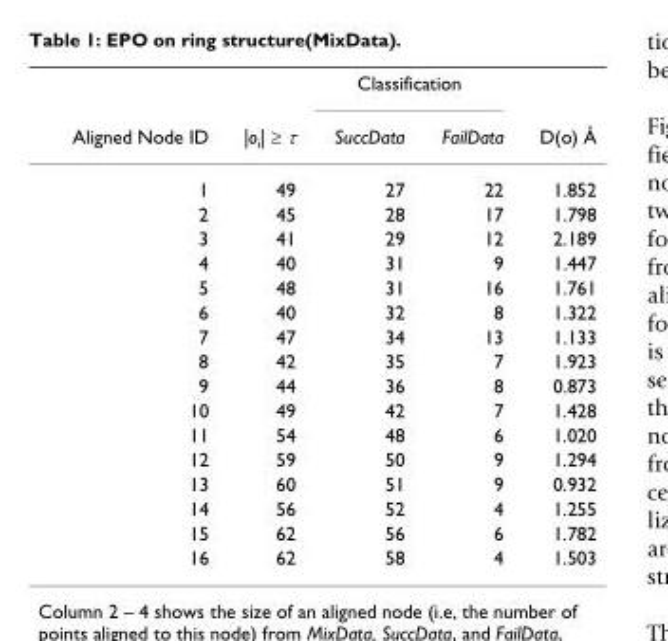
<table><thead><tr><td rowspan="2">Aligned Node ID</td><td rowspan="2">|o<sub>i</sub>| ≥ τ</td><td colspan="2">Classification</td><td rowspan="2">D(o) Å</td></tr><tr><td>SuccData</td><td>FailData</td></tr></thead><tbody><tr><td>1</td><td>49</td><td>27</td><td>22</td><td>1.852</td></tr><tr><td>2</td><td>45</td><td>28</td><td>17</td><td>1.798</td></tr><tr><td>3</td><td>41</td><td>29</td><td>12</td><td>2.189</td></tr><tr><td>4</td><td>40</td><td>31</td><td>9</td><td>1.447</td></tr><tr><td>5</td><td>48</td><td>31</td><td>16</td><td>1.761</td></tr><tr><td>6</td><td>40</td><td>32</td><td>8</td><td>1.322</td></tr><tr><td>7</td><td>47</td><td>34</td><td>13</td><td>1.133</td></tr><tr><td>8</td><td>42</td><td>35</td><td>7</td><td>1.923</td></tr><tr><td>9</td><td>44</td><td>36</td><td>8</td><td>0.873</td></tr><tr><td>10</td><td>49</td><td>42</td><td>7</td><td>1.428</td></tr><tr><td>11</td><td>54</td><td>48</td><td>6</td><td>1.020</td></tr><tr><td>12</td><td>59</td><td>50</td><td>9</td><td>1.294</td></tr><tr><td>13</td><td>60</td><td>51</td><td>9</td><td>0.932</td></tr><tr><td>14</td><td>56</td><td>52</td><td>4</td><td>1.255</td></tr><tr><td>15</td><td>62</td><td>56</td><td>6</td><td>1.782</td></tr><tr><td>16</td><td>62</td><td>58</td><td>4</td><td>1.503</td></tr></tbody></table>